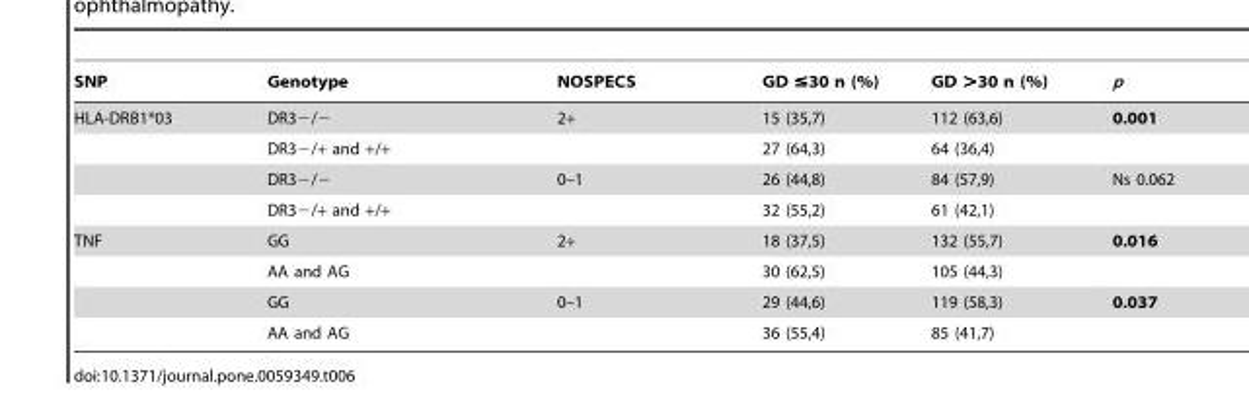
<table><thead><tr><td>SNP</td><td>Genotype</td><td>NOSPECS</td><td>GD ≤30 n (%)</td><td>GD &gt;30 n (%)</td><td>p</td></tr></thead><tbody><tr><td rowspan="4">HLA-DRB1*03</td><td>DR3−/−</td><td>2+</td><td>15 (35,7)</td><td>112 (63,6)</td><td>0.001</td></tr><tr><td>DR3−/+ and +/+</td><td></td><td>27 (64,3)</td><td>64 (36,4)</td><td></td></tr><tr><td>DR3−/−</td><td>0–1</td><td>26 (44,8)</td><td>84 (57,9)</td><td>Ns 0.062</td></tr><tr><td>DR3−/+ and +/+</td><td></td><td>32 (55,2)</td><td>61 (42,1)</td><td></td></tr><tr><td rowspan="4">TNF</td><td>GG</td><td>2+</td><td>18 (37,5)</td><td>132 (55,7)</td><td>0.016</td></tr><tr><td>AA and AG</td><td></td><td>30 (62,5)</td><td>105 (44,3)</td><td></td></tr><tr><td>GG</td><td>0–1</td><td>29 (44,6)</td><td>119 (58,3)</td><td>0.037</td></tr><tr><td>AA and AG</td><td></td><td>36 (55,4)</td><td>85 (41,7)</td><td></td></tr></tbody></table>